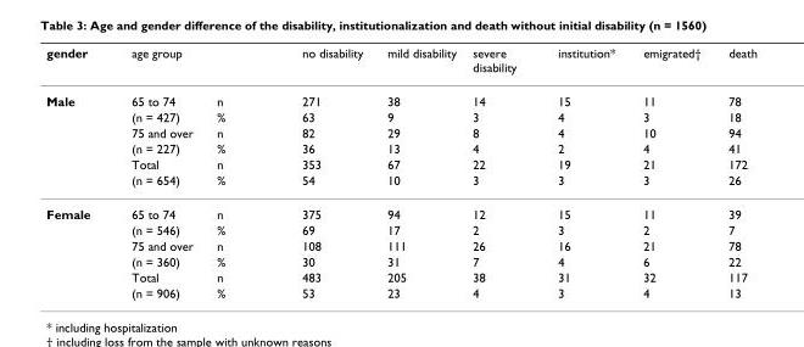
<table><thead><tr><td>gender</td><td>age group</td><td></td><td>no disability</td><td>mild disability</td><td>severe disability</td><td>institution*</td><td>emigrated†</td><td>death</td></tr></thead><tbody><tr><td rowspan="6">Male</td><td>65 to 74</td><td>n</td><td>271</td><td>38</td><td>14</td><td>15</td><td>11</td><td>78</td></tr><tr><td>(n = 427)</td><td>%</td><td>63</td><td>9</td><td>3</td><td>4</td><td>3</td><td>18</td></tr><tr><td>75 and over</td><td>n</td><td>82</td><td>29</td><td>8</td><td>4</td><td>10</td><td>94</td></tr><tr><td>(n = 227)</td><td>%</td><td>36</td><td>13</td><td>4</td><td>2</td><td>4</td><td>41</td></tr><tr><td>Total</td><td>n</td><td>353</td><td>67</td><td>22</td><td>19</td><td>21</td><td>172</td></tr><tr><td>(n = 654)</td><td>%</td><td>54</td><td>10</td><td>3</td><td>3</td><td>3</td><td>26</td></tr><tr><td rowspan="6">Female</td><td>65 to 74</td><td>n</td><td>375</td><td>94</td><td>12</td><td>15</td><td>11</td><td>39</td></tr><tr><td>(n = 546)</td><td>%</td><td>69</td><td>17</td><td>2</td><td>3</td><td>2</td><td>7</td></tr><tr><td>75 and over</td><td>n</td><td>108</td><td>111</td><td>26</td><td>16</td><td>21</td><td>78</td></tr><tr><td>(n = 360)</td><td>%</td><td>30</td><td>31</td><td>7</td><td>4</td><td>6</td><td>22</td></tr><tr><td>Total</td><td>n</td><td>483</td><td>205</td><td>38</td><td>31</td><td>32</td><td>117</td></tr><tr><td>(n = 906)</td><td>%</td><td>53</td><td>23</td><td>4</td><td>3</td><td>4</td><td>13</td></tr></tbody></table>